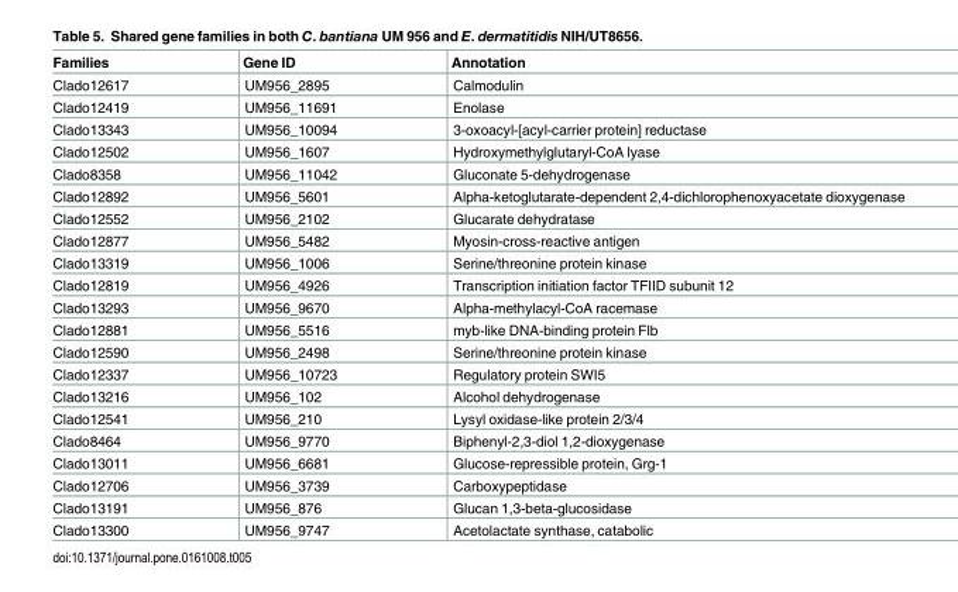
<table><thead><tr><td>Families</td><td>Gene ID</td><td>Annotation</td></tr></thead><tbody><tr><td>Clado12617</td><td>UM956_2895</td><td>Calmodulin</td></tr><tr><td>Clado12419</td><td>UM956_11691</td><td>Enolase</td></tr><tr><td>Clado13343</td><td>UM956_10094</td><td>3-oxoacyl-[acyl-carrier protein] reductase</td></tr><tr><td>Clado12502</td><td>UM956_1607</td><td>Hydroxymethylglutaryl-CoA lyase</td></tr><tr><td>Clado8358</td><td>UM956_11042</td><td>Gluconate 5-dehydrogenase</td></tr><tr><td>Clado12892</td><td>UM956_5601</td><td>Alpha-ketoglutarate-dependent 2,4-dichlorophenoxyacetate dioxygenase</td></tr><tr><td>Clado12552</td><td>UM956_2102</td><td>Glucarate dehydratase</td></tr><tr><td>Clado12877</td><td>UM956_5482</td><td>Myosin-cross-reactive antigen</td></tr><tr><td>Clado13319</td><td>UM956_1006</td><td>Serine/threonine protein kinase</td></tr><tr><td>Clado12819</td><td>UM956_4926</td><td>Transcription initiation factor TFIID subunit 12</td></tr><tr><td>Clado13293</td><td>UM956_9670</td><td>Alpha-methylacyl-CoA racemase</td></tr><tr><td>Clado12881</td><td>UM956_5516</td><td>myb-like DNA-binding protein Flb</td></tr><tr><td>Clado12590</td><td>UM956_2498</td><td>Serine/threonine protein kinase</td></tr><tr><td>Clado12337</td><td>UM956_10723</td><td>Regulatory protein SWI5</td></tr><tr><td>Clado13216</td><td>UM956_102</td><td>Alcohol dehydrogenase</td></tr><tr><td>Clado12541</td><td>UM956_210</td><td>Lysyl oxidase-like protein 2/3/4</td></tr><tr><td>Clado8464</td><td>UM956_9770</td><td>Biphenyl-2,3-diol 1,2-dioxygenase</td></tr><tr><td>Clado13011</td><td>UM956_6681</td><td>Glucose-repressible protein, Grg-1</td></tr><tr><td>Clado12706</td><td>UM956_3739</td><td>Carboxypeptidase</td></tr><tr><td>Clado13191</td><td>UM956_876</td><td>Glucan 1,3-beta-glucosidase</td></tr><tr><td>Clado13300</td><td>UM956_9747</td><td>Acetolactate synthase, catabolic</td></tr></tbody></table>